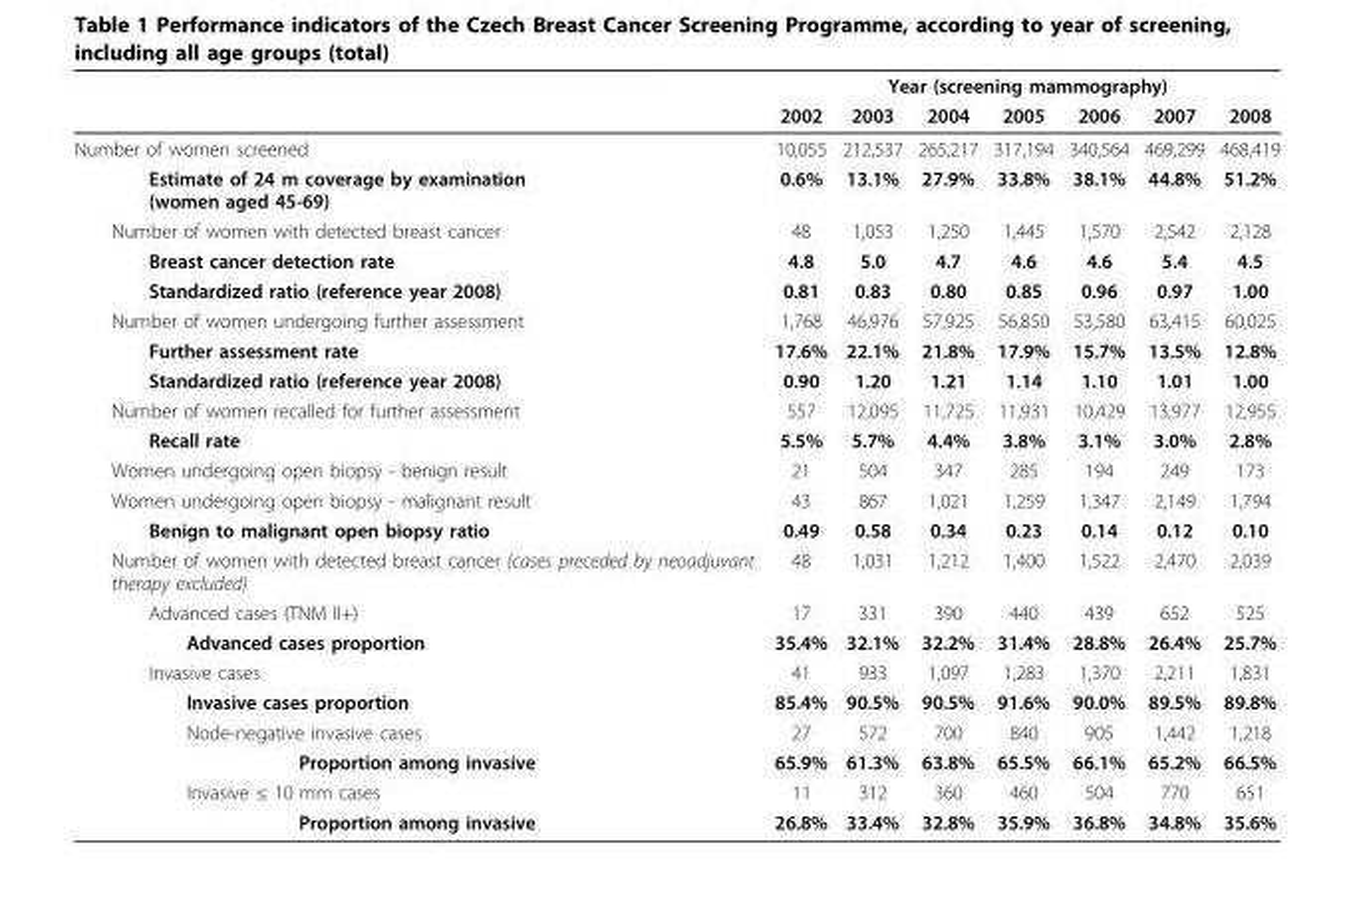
<table><thead><tr><td rowspan="2"></td><td colspan="7">Year (screening mammography)</td></tr><tr><td>2002</td><td>2003</td><td>2004</td><td>2005</td><td>2006</td><td>2007</td><td>2008</td></tr></thead><tbody><tr><td>Number of women screened</td><td>10,055</td><td>212,537</td><td>265,217</td><td>317,194</td><td>340,564</td><td>469,299</td><td>468,419</td></tr><tr><td>Estimate of 24 m coverage by examination (women aged 45-69)</td><td>0.6%</td><td>13.1%</td><td>27.9%</td><td>33.8%</td><td>38.1%</td><td>44.8%</td><td>51.2%</td></tr><tr><td>Number of women with detected breast cancer</td><td>48</td><td>1,053</td><td>1,250</td><td>1,445</td><td>1,570</td><td>2,542</td><td>2,128</td></tr><tr><td>Breast cancer detection rate</td><td>4.8</td><td>5.0</td><td>4.7</td><td>4.6</td><td>4.6</td><td>5.4</td><td>4.5</td></tr><tr><td>Standardized ratio (reference year 2008)</td><td>0.81</td><td>0.83</td><td>0.80</td><td>0.85</td><td>0.96</td><td>0.97</td><td>1.00</td></tr><tr><td>Number of women undergoing further assessment</td><td>1,768</td><td>46,976</td><td>57,925</td><td>56,850</td><td>53,580</td><td>63,415</td><td>60,025</td></tr><tr><td>Further assessment rate</td><td>17.6%</td><td>22.1%</td><td>21.8%</td><td>17.9%</td><td>15.7%</td><td>13.5%</td><td>12.8%</td></tr><tr><td>Standardized ratio (reference year 2008)</td><td>0.90</td><td>1.20</td><td>1.21</td><td>1.14</td><td>1.10</td><td>1.01</td><td>1.00</td></tr><tr><td>Number of women recalled for further assessment</td><td>557</td><td>12,095</td><td>11,725</td><td>11,931</td><td>10,429</td><td>13,977</td><td>12,955</td></tr><tr><td>Recall rate</td><td>5.5%</td><td>5.7%</td><td>4.4%</td><td>3.8%</td><td>3.1%</td><td>3.0%</td><td>2.8%</td></tr><tr><td>Women undergoing open biopsy - benign result</td><td>21</td><td>504</td><td>347</td><td>285</td><td>194</td><td>249</td><td>173</td></tr><tr><td>Women undergoing open biopsy - malignant result</td><td>43</td><td>867</td><td>1,021</td><td>1,259</td><td>1,347</td><td>2,149</td><td>1,794</td></tr><tr><td>Benign to malignant open biopsy ratio</td><td>0.49</td><td>0.58</td><td>0.34</td><td>0.23</td><td>0.14</td><td>0.12</td><td>0.10</td></tr><tr><td>Number of women with detected breast cancer (cases preceded by neoadjuvant therapy excluded)</td><td>48</td><td>1,031</td><td>1,212</td><td>1,400</td><td>1,522</td><td>2,470</td><td>2,039</td></tr><tr><td>Advanced cases (TNM II+)</td><td>17</td><td>331</td><td>390</td><td>440</td><td>439</td><td>652</td><td>525</td></tr><tr><td>Advanced cases proportion</td><td>35.4%</td><td>32.1%</td><td>32.2%</td><td>31.4%</td><td>28.8%</td><td>26.4%</td><td>25.7%</td></tr><tr><td>Invasive cases</td><td>41</td><td>933</td><td>1,097</td><td>1,283</td><td>1,370</td><td>2,211</td><td>1,831</td></tr><tr><td>Invasive cases proportion</td><td>85.4%</td><td>90.5%</td><td>90.5%</td><td>91.6%</td><td>90.0%</td><td>89.5%</td><td>89.8%</td></tr><tr><td>Node-negative invasive cases</td><td>27</td><td>572</td><td>700</td><td>840</td><td>905</td><td>1,442</td><td>1,218</td></tr><tr><td>Proportion among invasive</td><td>65.9%</td><td>61.3%</td><td>63.8%</td><td>65.5%</td><td>66.1%</td><td>65.2%</td><td>66.5%</td></tr><tr><td>Invasive ≤ 10 mm cases</td><td>11</td><td>312</td><td>360</td><td>460</td><td>504</td><td>770</td><td>651</td></tr><tr><td>Proportion among invasive</td><td>26.8%</td><td>33.4%</td><td>32.8%</td><td>35.9%</td><td>36.8%</td><td>34.8%</td><td>35.6%</td></tr></tbody></table>